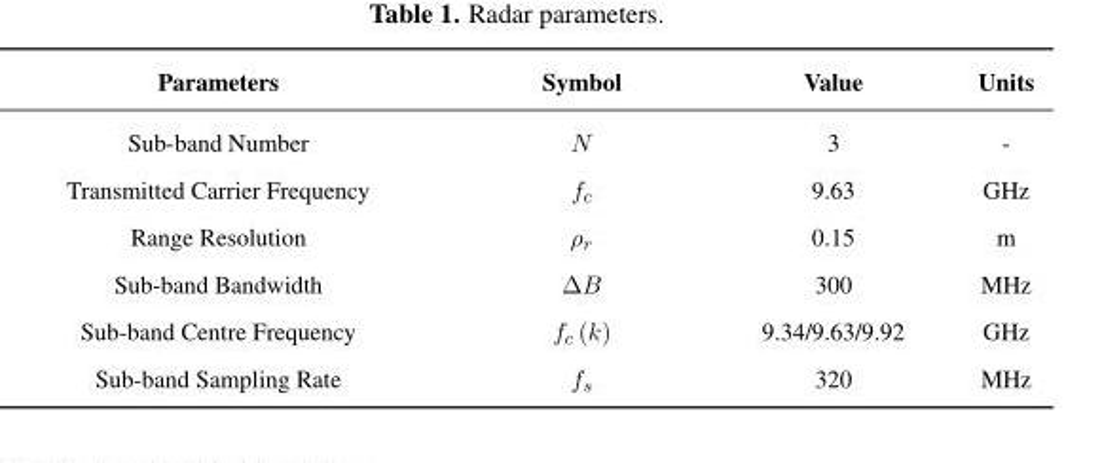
<table><thead><tr><td>Parameters</td><td>Symbol</td><td>Value</td><td>Units</td></tr></thead><tbody><tr><td>Sub-band Number</td><td>N</td><td>3</td><td>-</td></tr><tr><td>Transmitted Carrier Frequency</td><td>f<sub>c</sub></td><td>9.63</td><td>GHz</td></tr><tr><td>Range Resolution</td><td>ρr</td><td>0.15</td><td>m</td></tr><tr><td>Sub-band Bandwidth</td><td>∆B</td><td>300</td><td>MHz</td></tr><tr><td>Sub-band Centre Frequency</td><td>f<sub>c</sub> (k)</td><td>9.34/9.63/9.92</td><td>GHz</td></tr><tr><td>Sub-band Sampling Rate</td><td>f<sub>s</sub></td><td>320</td><td>MHz</td></tr></tbody></table>